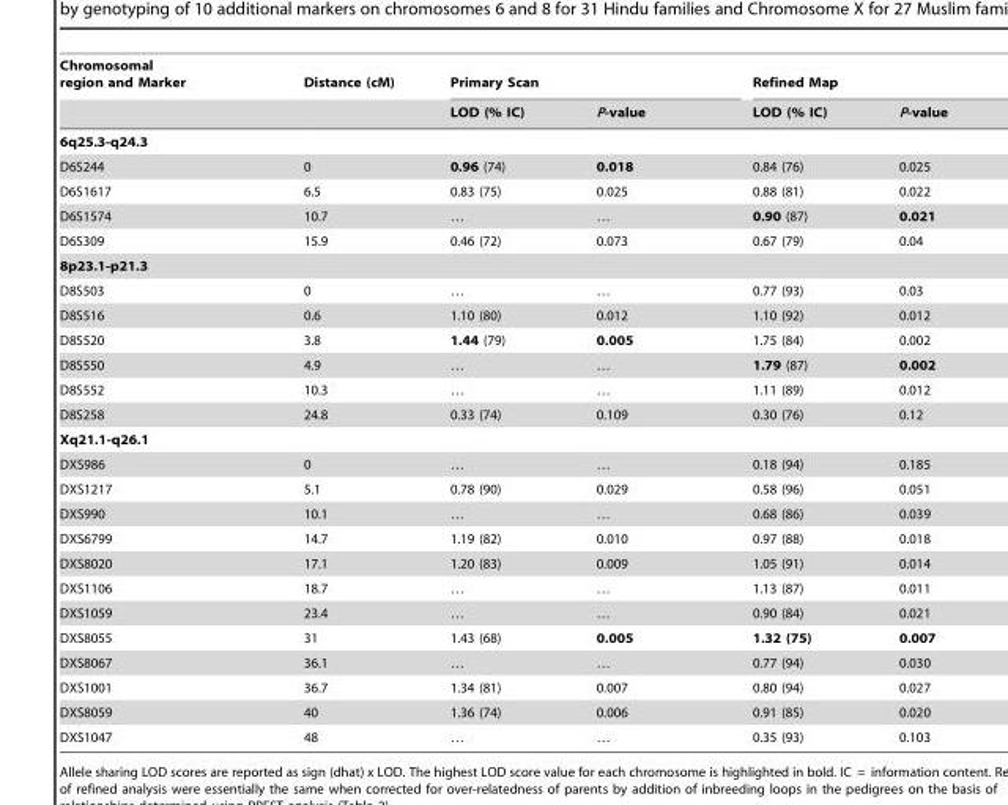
<table><thead><tr><td rowspan="2">Chromosomal region and Marker</td><td rowspan="2">Distance (cM)</td><td colspan="2">Primary Scan</td><td colspan="2">Refined Map</td></tr><tr><td>LOD (% IC)</td><td>P-value</td><td>LOD (% IC)</td><td>P-value</td></tr></thead><tbody><tr><td colspan="6">6q25.3-q24.3</td></tr><tr><td>D6S244</td><td>0</td><td>0.96 (74)</td><td>0.018</td><td>0.84 (76)</td><td>0.025</td></tr><tr><td>D6S1617</td><td>6.5</td><td>0.83 (75)</td><td>0.025</td><td>0.88 (81)</td><td>0.022</td></tr><tr><td>D6S1574</td><td>10.7</td><td>…</td><td>…</td><td>0.90 (87)</td><td>0.021</td></tr><tr><td>D6S309</td><td>15.9</td><td>0.46 (72)</td><td>0.073</td><td>0.67 (79)</td><td>0.04</td></tr><tr><td colspan="6">8p23.1-p21.3</td></tr><tr><td>D8S503</td><td>0</td><td>…</td><td>…</td><td>0.77 (93)</td><td>0.03</td></tr><tr><td>D8S516</td><td>0.6</td><td>1.10 (80)</td><td>0.012</td><td>1.10 (92)</td><td>0.012</td></tr><tr><td>D8S520</td><td>3.8</td><td>1.44 (79)</td><td>0.005</td><td>1.75 (84)</td><td>0.002</td></tr><tr><td>D8S550</td><td>4.9</td><td>…</td><td>…</td><td>1.79 (87)</td><td>0.002</td></tr><tr><td>D8S552</td><td>10.3</td><td>…</td><td>…</td><td>1.11 (89)</td><td>0.012</td></tr><tr><td>D8S258</td><td>24.8</td><td>0.33 (74)</td><td>0.109</td><td>0.30 (76)</td><td>0.12</td></tr><tr><td colspan="6">Xq21.1-q26.1</td></tr><tr><td>DXS986</td><td>0</td><td>…</td><td>…</td><td>0.18 (94)</td><td>0.185</td></tr><tr><td>DXS1217</td><td>5.1</td><td>0.78 (90)</td><td>0.029</td><td>0.58 (96)</td><td>0.051</td></tr><tr><td>DXS990</td><td>10.1</td><td>…</td><td>…</td><td>0.68 (86)</td><td>0.039</td></tr><tr><td>DXS6799</td><td>14.7</td><td>1.19 (82)</td><td>0.010</td><td>0.97 (88)</td><td>0.018</td></tr><tr><td>DXS8020</td><td>17.1</td><td>1.20 (83)</td><td>0.009</td><td>1.05 (91)</td><td>0.014</td></tr><tr><td>DXS1106</td><td>18.7</td><td>…</td><td>…</td><td>1.13 (87)</td><td>0.011</td></tr><tr><td>DXS1059</td><td>23.4</td><td>…</td><td>…</td><td>0.90 (84)</td><td>0.021</td></tr><tr><td>DXS8055</td><td>31</td><td>1.43 (68)</td><td>0.005</td><td>1.32 (75)</td><td>0.007</td></tr><tr><td>DXS8067</td><td>36.1</td><td>…</td><td>…</td><td>0.77 (94)</td><td>0.030</td></tr><tr><td>DXS1001</td><td>36.7</td><td>1.34 (81)</td><td>0.007</td><td>0.80 (94)</td><td>0.027</td></tr><tr><td>DXS8059</td><td>40</td><td>1.36 (74)</td><td>0.006</td><td>0.91 (85)</td><td>0.020</td></tr><tr><td>DXS1047</td><td>48</td><td>…</td><td>…</td><td>0.35 (93)</td><td>0.103</td></tr></tbody></table>